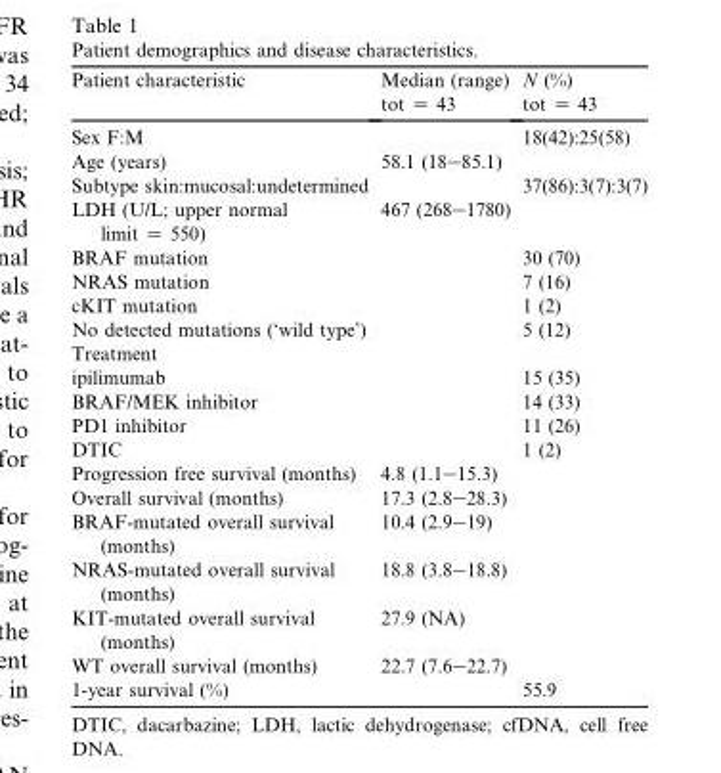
<table><thead><tr><td>Patient characteristic</td><td>Median (range) tot = 43</td><td>N (%) tot = 43</td></tr></thead><tbody><tr><td>Sex F:M</td><td></td><td>18(42):25(58)</td></tr><tr><td>Age (years)</td><td>58.1 (18–85.1)</td><td></td></tr><tr><td>Subtype skin:mucosal:undetermined</td><td></td><td>37(86):3(7):3(7)</td></tr><tr><td>LDH (U/L; upper normal limit = 550)</td><td>467 (268–1780)</td><td></td></tr><tr><td>BRAF mutation</td><td></td><td>30 (70)</td></tr><tr><td>NRAS mutation</td><td></td><td>7 (16)</td></tr><tr><td>cKIT mutation</td><td></td><td>1 (2)</td></tr><tr><td>No detected mutations (‘wild type’)</td><td></td><td>5 (12)</td></tr><tr><td colspan="3">Treatment</td></tr><tr><td>ipilimumab</td><td></td><td>15 (35)</td></tr><tr><td>BRAF/MEK inhibitor</td><td></td><td>14 (33)</td></tr><tr><td>PD1 inhibitor</td><td></td><td>11 (26)</td></tr><tr><td>DTIC</td><td></td><td>1 (2)</td></tr><tr><td>Progression free survival (months)</td><td>4.8 (1.1–15.3)</td><td></td></tr><tr><td>Overall survival (months)</td><td>17.3 (2.8–28.3)</td><td></td></tr><tr><td>BRAF-mutated overall survival (months)</td><td>10.4 (2.9–19)</td><td></td></tr><tr><td>NRAS-mutated overall survival (months)</td><td>18.8 (3.8–18.8)</td><td></td></tr><tr><td>KIT-mutated overall survival (months)</td><td>27.9 (NA)</td><td></td></tr><tr><td>WT overall survival (months)</td><td>22.7 (7.6–22.7)</td><td></td></tr><tr><td>1-year survival (%)</td><td></td><td>55.9</td></tr></tbody></table>